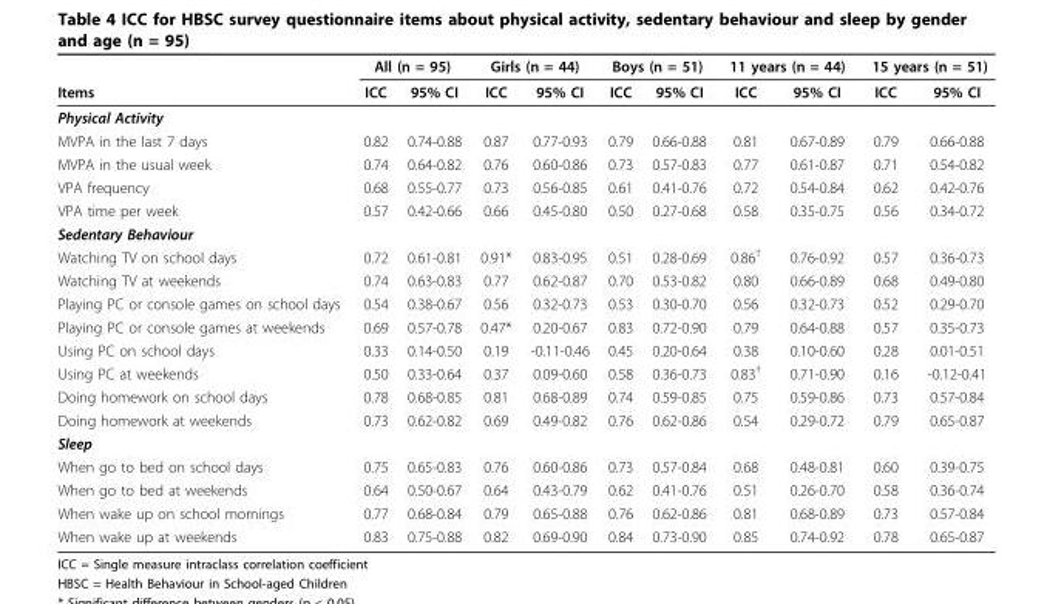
<table><thead><tr><td rowspan="2">Items</td><td colspan="2">All (n = 95)</td><td colspan="2">Girls (n = 44)</td><td colspan="2">Boys (n = 51)</td><td colspan="2">11 years (n = 44)</td><td colspan="2">15 years (n = 51)</td></tr><tr><td>ICC</td><td>95% CI</td><td>ICC</td><td>95% CI</td><td>ICC</td><td>95% CI</td><td>ICC</td><td>95% CI</td><td>ICC</td><td>95% CI</td></tr></thead><tbody><tr><td colspan="11">Physical Activity</td></tr><tr><td>MVPA in the last 7 days</td><td>0.82</td><td>0.74-0.88</td><td>0.87</td><td>0.77-0.93</td><td>0.79</td><td>0.66-0.88</td><td>0.81</td><td>0.67-0.89</td><td>0.79</td><td>0.66-0.88</td></tr><tr><td>MVPA in the usual week</td><td>0.74</td><td>0.64-0.82</td><td>0.76</td><td>0.60-0.86</td><td>0.73</td><td>0.57-0.83</td><td>0.77</td><td>0.61-0.87</td><td>0.71</td><td>0.54-0.82</td></tr><tr><td>VPA frequency</td><td>0.68</td><td>0.55-0.77</td><td>0.73</td><td>0.56-0.85</td><td>0.61</td><td>0.41-0.76</td><td>0.72</td><td>0.54-0.84</td><td>0.62</td><td>0.42-0.76</td></tr><tr><td>VPA time per week</td><td>0.57</td><td>0.42-0.66</td><td>0.66</td><td>0.45-0.80</td><td>0.50</td><td>0.27-0.68</td><td>0.58</td><td>0.35-0.75</td><td>0.56</td><td>0.34-0.72</td></tr><tr><td colspan="11">Sedentary Behaviour</td></tr><tr><td>Watching TV on school days</td><td>0.72</td><td>0.61-0.81</td><td>0.91*</td><td>0.83-0.95</td><td>0.51</td><td>0.28-0.69</td><td>0.86<sup>†</sup></td><td>0.76-0.92</td><td>0.57</td><td>0.36-0.73</td></tr><tr><td>Watching TV at weekends</td><td>0.74</td><td>0.63-0.83</td><td>0.77</td><td>0.62-0.87</td><td>0.70</td><td>0.53-0.82</td><td>0.80</td><td>0.66-0.89</td><td>0.68</td><td>0.49-0.80</td></tr><tr><td>Playing PC or console games on school days</td><td>0.54</td><td>0.38-0.67</td><td>0.56</td><td>0.32-0.73</td><td>0.53</td><td>0.30-0.70</td><td>0.56</td><td>0.32-0.73</td><td>0.52</td><td>0.29-0.70</td></tr><tr><td>Playing PC or console games at weekends</td><td>0.69</td><td>0.57-0.78</td><td>0.47*</td><td>0.20-0.67</td><td>0.83</td><td>0.72-0.90</td><td>0.79</td><td>0.64-0.88</td><td>0.57</td><td>0.35-0.73</td></tr><tr><td>Using PC on school days</td><td>0.33</td><td>0.14-0.50</td><td>0.19</td><td>-0.11-0.46</td><td>0.45</td><td>0.20-0.64</td><td>0.38</td><td>0.10-0.60</td><td>0.28</td><td>0.01-0.51</td></tr><tr><td>Using PC at weekends</td><td>0.50</td><td>0.33-0.64</td><td>0.37</td><td>0.09-0.60</td><td>0.58</td><td>0.36-0.73</td><td>0.83<sup>†</sup></td><td>0.71-0.90</td><td>0.16</td><td>-0.12-0.41</td></tr><tr><td>Doing homework on school days</td><td>0.78</td><td>0.68-0.85</td><td>0.81</td><td>0.68-0.89</td><td>0.74</td><td>0.59-0.85</td><td>0.75</td><td>0.59-0.86</td><td>0.73</td><td>0.57-0.84</td></tr><tr><td>Doing homework at weekends</td><td>0.73</td><td>0.62-0.82</td><td>0.69</td><td>0.49-0.82</td><td>0.76</td><td>0.62-0.86</td><td>0.54</td><td>0.29-0.72</td><td>0.79</td><td>0.65-0.87</td></tr><tr><td colspan="11">Sleep</td></tr><tr><td>When go to bed on school days</td><td>0.75</td><td>0.65-0.83</td><td>0.76</td><td>0.60-0.86</td><td>0.73</td><td>0.57-0.84</td><td>0.68</td><td>0.48-0.81</td><td>0.60</td><td>0.39-0.75</td></tr><tr><td>When go to bed at weekends</td><td>0.64</td><td>0.50-0.67</td><td>0.64</td><td>0.43-0.79</td><td>0.62</td><td>0.41-0.76</td><td>0.51</td><td>0.26-0.70</td><td>0.58</td><td>0.36-0.74</td></tr><tr><td>When wake up on school mornings</td><td>0.77</td><td>0.68-0.84</td><td>0.79</td><td>0.65-0.88</td><td>0.76</td><td>0.62-0.86</td><td>0.81</td><td>0.68-0.89</td><td>0.73</td><td>0.57-0.84</td></tr><tr><td>When wake up at weekends</td><td>0.83</td><td>0.75-0.88</td><td>0.82</td><td>0.69-0.90</td><td>0.84</td><td>0.73-0.90</td><td>0.85</td><td>0.74-0.92</td><td>0.78</td><td>0.65-0.87</td></tr></tbody></table>